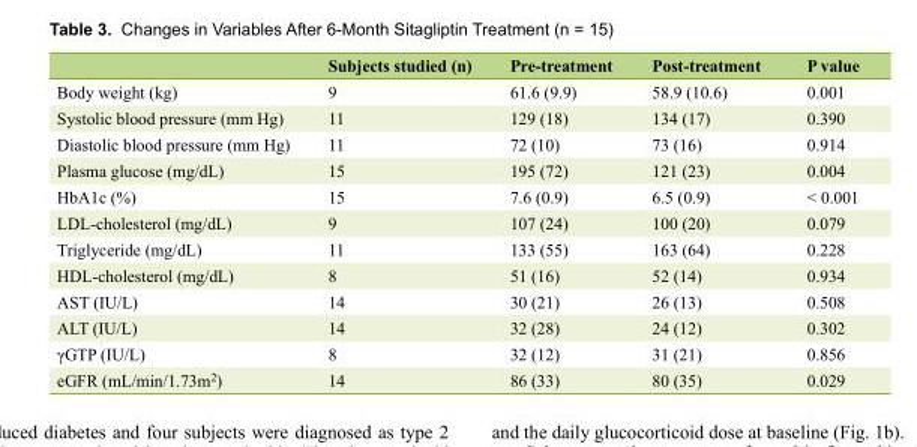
<table><thead><tr><td></td><td>Subjects studied (n)</td><td>Pre-treatment</td><td>Post-treatment</td><td>P value</td></tr></thead><tbody><tr><td>Body weight (kg)</td><td>9</td><td>61.6 (9.9)</td><td>58.9 (10.6)</td><td>0.001</td></tr><tr><td>Systolic blood pressure (mm Hg)</td><td>11</td><td>129 (18)</td><td>134 (17)</td><td>0.390</td></tr><tr><td>Diastolic blood pressure (mm Hg)</td><td>11</td><td>72 (10)</td><td>73 (16)</td><td>0.914</td></tr><tr><td>Plasma glucose (mg/dL)</td><td>15</td><td>195 (72)</td><td>121 (23)</td><td>0.004</td></tr><tr><td>HbA1c (%)</td><td>15</td><td>7.6 (0.9)</td><td>6.5 (0.9)</td><td>&lt; 0.001</td></tr><tr><td>LDL-cholesterol (mg/dL)</td><td>9</td><td>107 (24)</td><td>100 (20)</td><td>0.079</td></tr><tr><td>Triglyceride (mg/dL)</td><td>11</td><td>133 (55)</td><td>163 (64)</td><td>0.228</td></tr><tr><td>HDL-cholesterol (mg/dL)</td><td>8</td><td>51 (16)</td><td>52 (14)</td><td>0.934</td></tr><tr><td>AST (IU/L)</td><td>14</td><td>30 (21)</td><td>26 (13)</td><td>0.508</td></tr><tr><td>ALT (IU/L)</td><td>14</td><td>32 (28)</td><td>24 (12)</td><td>0.302</td></tr><tr><td>γGTP (IU/L)</td><td>8</td><td>32 (12)</td><td>31 (21)</td><td>0.856</td></tr><tr><td>eGFR (mL/min/1.73m<sup>2</sup>)</td><td>14</td><td>86 (33)</td><td>80 (35)</td><td>0.029</td></tr></tbody></table>